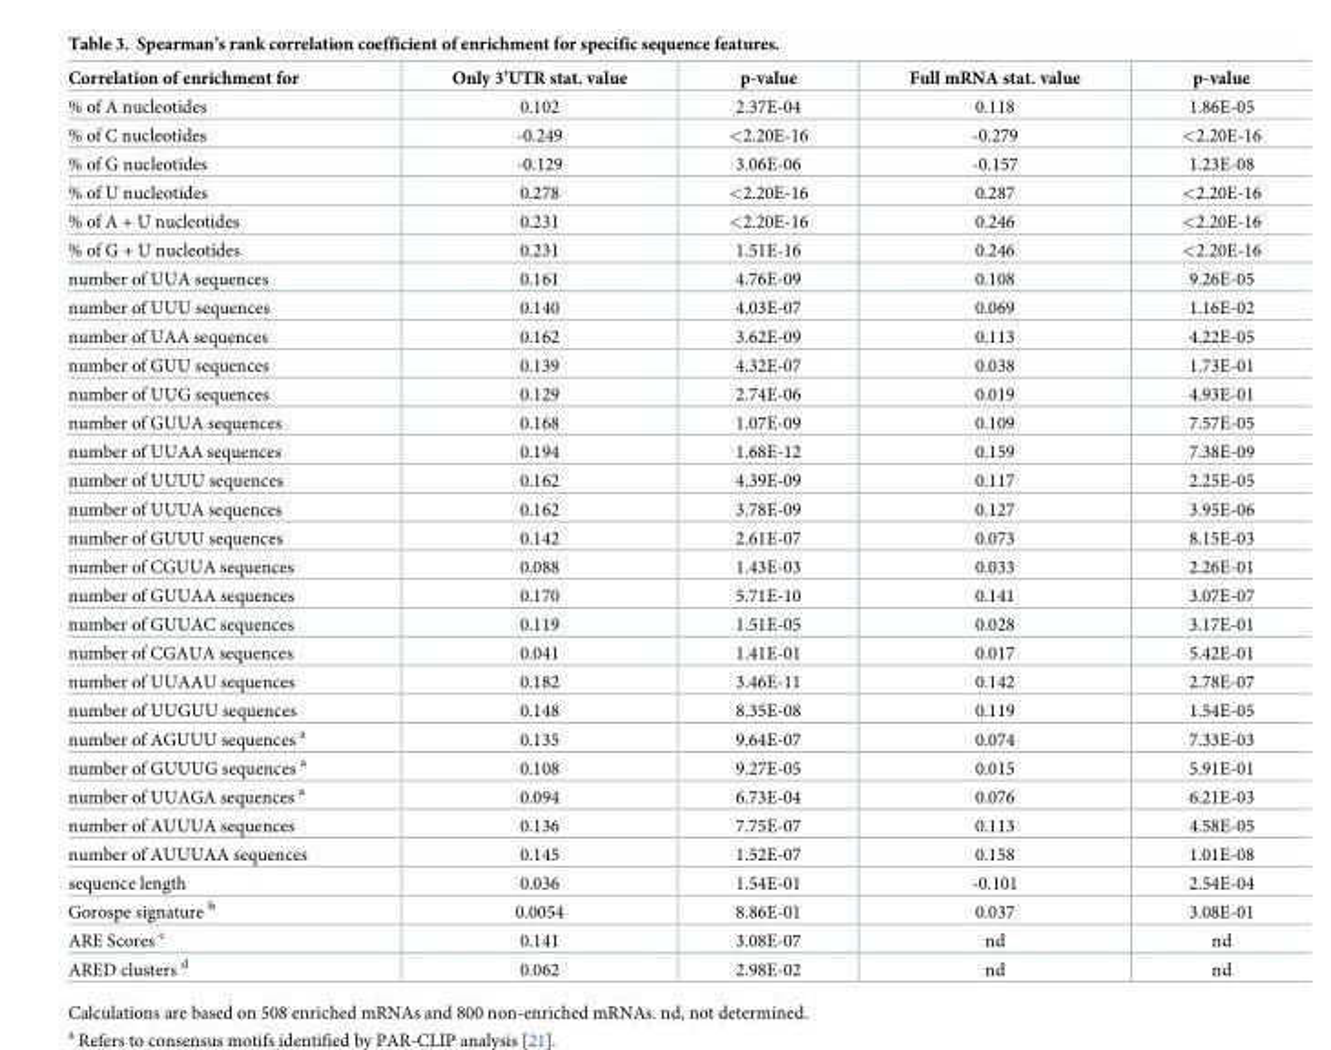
<table><thead><tr><td>Correlation of enrichment for</td><td>Only 3’UTR stat. value</td><td>p-value</td><td>Full mRNA stat. value</td><td>p-value</td></tr></thead><tbody><tr><td>% of A nucleotides</td><td>0.102</td><td>2.37E-04</td><td>0.118</td><td>1.86E-05</td></tr><tr><td>% of C nucleotides</td><td>-0.249</td><td>&lt;2.20E-16</td><td>-0.279</td><td>&lt;2.20E-16</td></tr><tr><td>% of G nucleotides</td><td>-0.129</td><td>3.06E-06</td><td>-0.157</td><td>1.23E-08</td></tr><tr><td>% of U nucleotides</td><td>0.278</td><td>&lt;2.20E-16</td><td>0.287</td><td>&lt;2.20E-16</td></tr><tr><td>% of A + U nucleotides</td><td>0.231</td><td>&lt;2.20E-16</td><td>0.246</td><td>&lt;2.20E-16</td></tr><tr><td>% of G + U nucleotides</td><td>0.231</td><td>1.51E-16</td><td>0.246</td><td>&lt;2.20E-16</td></tr><tr><td>number of UUA sequences</td><td>0.161</td><td>4.76E-09</td><td>0.108</td><td>9.26E-05</td></tr><tr><td>number of UUU sequences</td><td>0.140</td><td>4.03E-07</td><td>0.069</td><td>1.16E-02</td></tr><tr><td>number of UAA sequences</td><td>0.162</td><td>3.62E-09</td><td>0.113</td><td>4.22E-05</td></tr><tr><td>number of GUU sequences</td><td>0.139</td><td>4.32E-07</td><td>0.038</td><td>1.73E-01</td></tr><tr><td>number of UUG sequences</td><td>0.129</td><td>2.74E-06</td><td>0.019</td><td>4.93E-01</td></tr><tr><td>number of GUUA sequences</td><td>0.168</td><td>1.07E-09</td><td>0.109</td><td>7.57E-05</td></tr><tr><td>number of UUAA sequences</td><td>0.194</td><td>1.68E-12</td><td>0.159</td><td>7.38E-09</td></tr><tr><td>number of UUUU sequences</td><td>0.162</td><td>4.39E-09</td><td>0.117</td><td>2.25E-05</td></tr><tr><td>number of UUUA sequences</td><td>0.162</td><td>3.78E-09</td><td>0.127</td><td>3.95E-06</td></tr><tr><td>number of GUUU sequences</td><td>0.142</td><td>2.61E-07</td><td>0.073</td><td>8.15E-03</td></tr><tr><td>number of CGUUA sequences</td><td>0.088</td><td>1.43E-03</td><td>0.033</td><td>2.26E-01</td></tr><tr><td>number of GUUAA sequences</td><td>0.170</td><td>5.71E-10</td><td>0.141</td><td>3.07E-07</td></tr><tr><td>number of GUUAC sequences</td><td>0.119</td><td>1.51E-05</td><td>0.028</td><td>3.17E-01</td></tr><tr><td>number of CGAUA sequences</td><td>0.041</td><td>1.41E-01</td><td>0.017</td><td>5.42E-01</td></tr><tr><td>number of UUAAU sequences</td><td>0.182</td><td>3.46E-11</td><td>0.142</td><td>2.78E-07</td></tr><tr><td>number of UUGUU sequences</td><td>0.148</td><td>8.35E-08</td><td>0.119</td><td>1.54E-05</td></tr><tr><td>number of AGUUU sequences <sup>a</sup></td><td>0.135</td><td>9.64E-07</td><td>0.074</td><td>7.33E-03</td></tr><tr><td>number of GUUUG sequences <sup>a</sup></td><td>0.108</td><td>9.27E-05</td><td>0.015</td><td>5.91E-01</td></tr><tr><td>number of UUAGA sequences <sup>a</sup></td><td>0.094</td><td>6.73E-04</td><td>0.076</td><td>6.21E-03</td></tr><tr><td>number of AUUUA sequences</td><td>0.136</td><td>7.75E-07</td><td>0.113</td><td>4.58E-05</td></tr><tr><td>number of AUUUAA sequences</td><td>0.145</td><td>1.52E-07</td><td>0.158</td><td>1.01E-08</td></tr><tr><td>sequence length</td><td>0.036</td><td>1.54E-01</td><td>-0.101</td><td>2.54E-04</td></tr><tr><td>Gorospe signature <sup>b</sup></td><td>0.0054</td><td>8.86E-01</td><td>0.037</td><td>3.08E-01</td></tr><tr><td>ARE Scores <sup>c</sup></td><td>0.141</td><td>3.08E-07</td><td>nd</td><td>nd</td></tr><tr><td>ARED clusters <sup>d</sup></td><td>0.062</td><td>2.98E-02</td><td>nd</td><td>nd</td></tr></tbody></table>